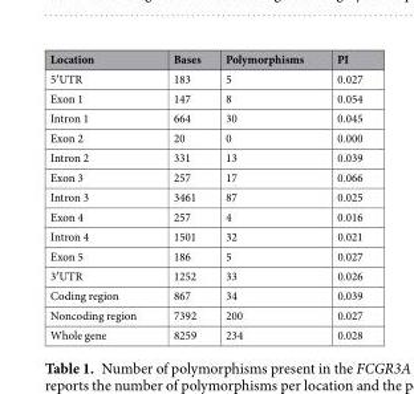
<table><thead><tr><td>Location</td><td>Bases</td><td>Polymorphisms</td><td>PI</td></tr></thead><tbody><tr><td>5′UTR</td><td>183</td><td>5</td><td>0.027</td></tr><tr><td>Exon 1</td><td>147</td><td>8</td><td>0.054</td></tr><tr><td>Intron 1</td><td>664</td><td>30</td><td>0.045</td></tr><tr><td>Exon 2</td><td>20</td><td>0</td><td>0.000</td></tr><tr><td>Intron 2</td><td>331</td><td>13</td><td>0.039</td></tr><tr><td>Exon 3</td><td>257</td><td>17</td><td>0.066</td></tr><tr><td>Intron 3</td><td>3461</td><td>87</td><td>0.025</td></tr><tr><td>Exon 4</td><td>257</td><td>4</td><td>0.016</td></tr><tr><td>Intron 4</td><td>1501</td><td>32</td><td>0.021</td></tr><tr><td>Exon 5</td><td>186</td><td>5</td><td>0.027</td></tr><tr><td>3′UTR</td><td>1252</td><td>33</td><td>0.026</td></tr><tr><td>Coding region</td><td>867</td><td>34</td><td>0.039</td></tr><tr><td>Noncoding region</td><td>7392</td><td>200</td><td>0.027</td></tr><tr><td>Whole gene</td><td>8259</td><td>234</td><td>0.028</td></tr></tbody></table>